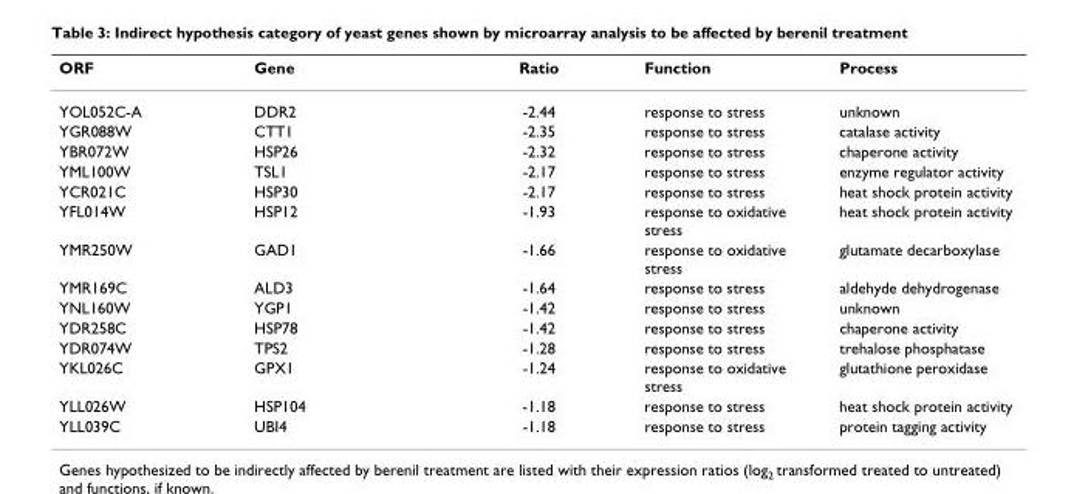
<table><thead><tr><td>ORF</td><td>Gene</td><td>Ratio</td><td>Function</td><td>Process</td></tr></thead><tbody><tr><td>YOL052C-A</td><td>DDR2</td><td>-2.44</td><td>response to stress</td><td>unknown</td></tr><tr><td>YGR088W</td><td>CTT1</td><td>-2.35</td><td>response to stress</td><td>catalase activity</td></tr><tr><td>YBR072W</td><td>HSP26</td><td>-2.32</td><td>response to stress</td><td>chaperone activity</td></tr><tr><td>YML100W</td><td>TSL1</td><td>-2.17</td><td>response to stress</td><td>enzyme regulator activity</td></tr><tr><td>YCR021C</td><td>HSP30</td><td>-2.17</td><td>response to stress</td><td>heat shock protein activity</td></tr><tr><td>YFL014W</td><td>HSP12</td><td>-1.93</td><td>response to oxidative stress</td><td>heat shock protein activity</td></tr><tr><td>YMR250W</td><td>GAD1</td><td>-1.66</td><td>response to oxidative stress</td><td>glutamate decarboxylase</td></tr><tr><td>YMR169C</td><td>ALD3</td><td>-1.64</td><td>response to stress</td><td>aldehyde dehydrogenase</td></tr><tr><td>YNL160W</td><td>YGP1</td><td>-1.42</td><td>response to stress</td><td>unknown</td></tr><tr><td>YDR258C</td><td>HSP78</td><td>-1.42</td><td>response to stress</td><td>chaperone activity</td></tr><tr><td>YDR074W</td><td>TPS2</td><td>-1.28</td><td>response to stress</td><td>trehalose phosphatase</td></tr><tr><td>YKL026C</td><td>GPX1</td><td>-1.24</td><td>response to oxidative stress</td><td>glutathione peroxidase</td></tr><tr><td>YLL026W</td><td>HSP104</td><td>-1.18</td><td>response to stress</td><td>heat shock protein activity</td></tr><tr><td>YLL039C</td><td>UBI4</td><td>-1.18</td><td>response to stress</td><td>protein tagging activity</td></tr></tbody></table>